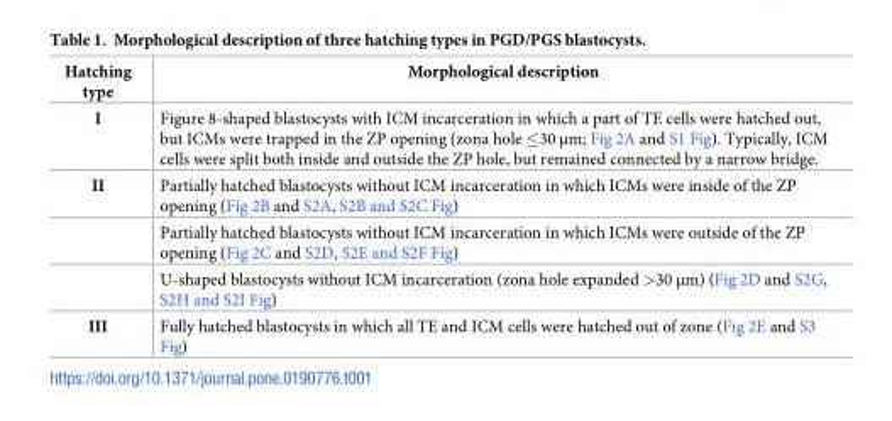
<table><thead><tr><td>Hatching type</td><td>Morphological description</td></tr></thead><tbody><tr><td>I</td><td>Figure 8-shaped blastocysts with ICM incarceration in which a part of TE cells were hatched out, but ICMs were trapped in the ZP opening (zona hole ≤30 μm; Fig 2A and S1 Fig). Typically, ICM cells were split both inside and outside the ZP hole, but remained connected by a narrow bridge.</td></tr><tr><td rowspan="3">II</td><td>Partially hatched blastocysts without ICM incarceration in which ICMs were inside of the ZP opening (Fig 2B and S2A, S2B and S2C Fig)</td></tr><tr><td>Partially hatched blastocysts without ICM incarceration in which ICMs were outside of the ZP opening (Fig 2C and S2D, S2E and S2F Fig)</td></tr><tr><td>U-shaped blastocysts without ICM incarceration (zona hole expanded &gt;30 μm) (Fig 2D and S2G, S2H and S2I Fig)</td></tr><tr><td>III</td><td>Fully hatched blastocysts in which all TE and ICM cells were hatched out of zone (Fig 2E and S3 Fig)</td></tr></tbody></table>